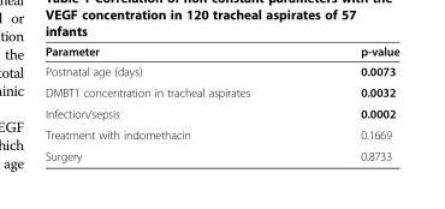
<table><thead><tr><td>Parameter</td><td>p-value</td></tr></thead><tbody><tr><td>Postnatal age (days)</td><td>0.0073</td></tr><tr><td>DMBT1 concentration in tracheal aspirates</td><td>0.0032</td></tr><tr><td>Infection/sepsis</td><td>0.0002</td></tr><tr><td>Treatment with indomethacin</td><td>0.1669</td></tr><tr><td>Surgery</td><td>0.8733</td></tr></tbody></table>